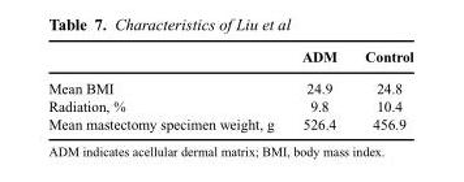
<table><thead><tr><td></td><td>ADM</td><td>Control</td></tr></thead><tbody><tr><td>Mean BMI</td><td>24.9</td><td>24.8</td></tr><tr><td>Radiation, %</td><td>9.8</td><td>10.4</td></tr><tr><td>Mean mastectomy specimen weight, g</td><td>526.4</td><td>456.9</td></tr></tbody></table>